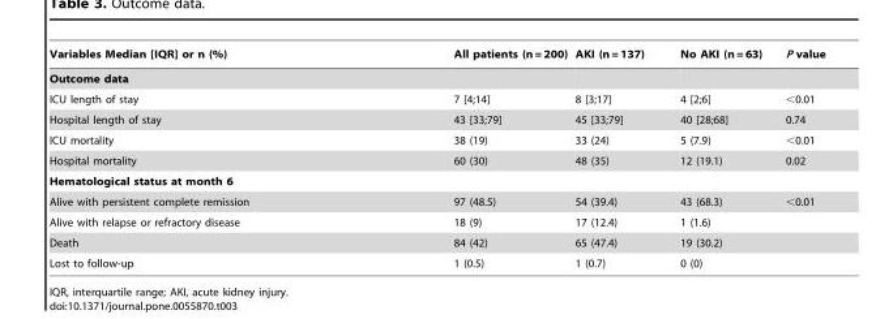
<table><thead><tr><td>Variables Median [IQR] or n (%)</td><td>All patients (n = 200)</td><td>AKI (n = 137)</td><td>No AKI (n = 63)</td><td>P value</td></tr></thead><tbody><tr><td colspan="5">Outcome data</td></tr><tr><td>ICU length of stay</td><td>7 [4;14]</td><td>8 [3;17]</td><td>4 [2;6]</td><td>&lt;0.01</td></tr><tr><td>Hospital length of stay</td><td>43 [33;79]</td><td>45 [33;79]</td><td>40 [28;68]</td><td>0.74</td></tr><tr><td>ICU mortality</td><td>38 (19)</td><td>33 (24)</td><td>5 (7.9)</td><td>&lt;0.01</td></tr><tr><td>Hospital mortality</td><td>60 (30)</td><td>48 (35)</td><td>12 (19.1)</td><td>0.02</td></tr><tr><td colspan="5">Hematological status at month 6</td></tr><tr><td>Alive with persistent complete remission</td><td>97 (48.5)</td><td>54 (39.4)</td><td>43 (68.3)</td><td>&lt;0.01</td></tr><tr><td>Alive with relapse or refractory disease</td><td>18 (9)</td><td>17 (12.4)</td><td>1 (1.6)</td><td></td></tr><tr><td>Death</td><td>84 (42)</td><td>65 (47.4)</td><td>19 (30.2)</td><td></td></tr><tr><td>Lost to follow-up</td><td>1 (0.5)</td><td>1 (0.7)</td><td>0 (0)</td><td></td></tr></tbody></table>